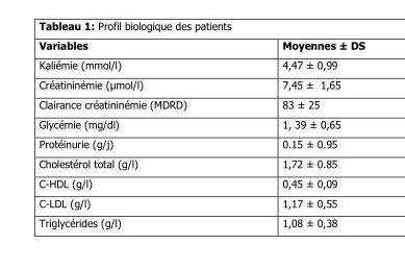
<table><thead><tr><td>Variables</td><td>Moyennes ± DS</td></tr></thead><tbody><tr><td>Kaliémie (mmol/l)</td><td>4,47 ± 0,99</td></tr><tr><td>Créatininémie (μmol/l)</td><td>7,45 ± 1,65</td></tr><tr><td>Clairance créatininémie (MDRD)</td><td>83 ± 25</td></tr><tr><td>Glycémie (mg/dl)</td><td>1, 39 ± 0,65</td></tr><tr><td>Protéinurie (g/j)</td><td>0.15 ± 0.95</td></tr><tr><td>Cholestérol total (g/l)</td><td>1,72 ± 0.85</td></tr><tr><td>C-HDL (g/l)</td><td>0,45 ± 0,09</td></tr><tr><td>C-LDL (g/l)</td><td>1,17 ± 0,55</td></tr><tr><td>Triglycérides (g/l)</td><td>1,08 ± 0,38</td></tr></tbody></table>